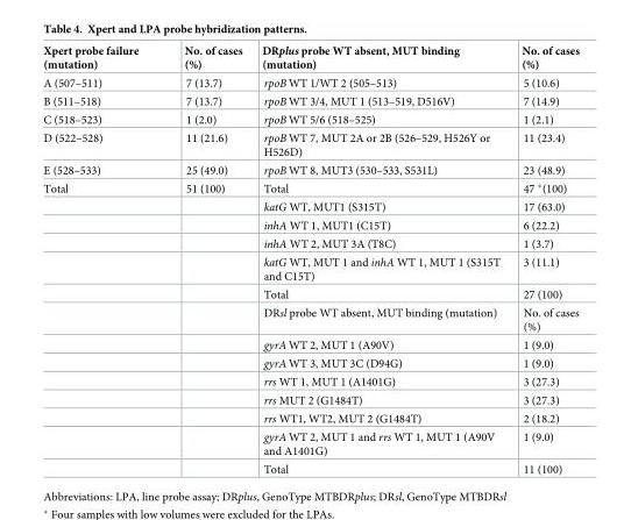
<table><thead><tr><td>Xpert probe failure (mutation)</td><td>No. of cases (%)</td><td>DRplus probe WT absent, MUT binding (mutation)</td><td>No. of cases (%)</td></tr></thead><tbody><tr><td>A (507–511)</td><td>7 (13.7)</td><td>rpoB WT 1/WT 2 (505–513)</td><td>5 (10.6)</td></tr><tr><td>B (511–518)</td><td>7 (13.7)</td><td>rpoB WT 3/4, MUT 1 (513–519, D516V)</td><td>7 (14.9)</td></tr><tr><td>C (518–523)</td><td>1 (2.0)</td><td>rpoB WT 5/6 (518–525)</td><td>1 (2.1)</td></tr><tr><td>D (522–528)</td><td>11 (21.6)</td><td>rpoB WT 7, MUT 2A or 2B (526–529, H526Y or H526D)</td><td>11 (23.4)</td></tr><tr><td>E (528–533)</td><td>25 (49.0)</td><td>rpoB WT 8, MUT3 (530–533, S531L)</td><td>23 (48.9)</td></tr><tr><td rowspan="14">Total</td><td>51 (100)</td><td>Total</td><td>47 *(100)</td></tr><tr><td></td><td>katG WT, MUT1 (S315T)</td><td>17 (63.0)</td></tr><tr><td></td><td>inhA WT 1, MUT1 (C15T)</td><td>6 (22.2)</td></tr><tr><td></td><td>inhA WT 2, MUT 3A (T8C)</td><td>1 (3.7)</td></tr><tr><td></td><td>katG WT, MUT 1 and inhA WT 1, MUT 1 (S315T and C15T)</td><td>3 (11.1)</td></tr><tr><td></td><td>Total</td><td>27 (100)</td></tr><tr><td></td><td>DRsl probe WT absent, MUT binding (mutation)</td><td>No. of cases (%)</td></tr><tr><td></td><td>gyrA WT 2, MUT 1 (A90V)</td><td>1 (9.0)</td></tr><tr><td></td><td>gyrA WT 3, MUT 3C (D94G)</td><td>1 (9.0)</td></tr><tr><td></td><td>rrs WT 1, MUT 1 (A1401G)</td><td>3 (27.3)</td></tr><tr><td></td><td>rrs MUT 2 (G1484T)</td><td>3 (27.3)</td></tr><tr><td></td><td>rrs WT1, WT2, MUT 2 (G1484T)</td><td>2 (18.2)</td></tr><tr><td></td><td>gyrA WT 2, MUT 1 and rrs WT 1, MUT 1 (A90V and A1401G)</td><td>1 (9.0)</td></tr><tr><td></td><td>Total</td><td>11 (100)</td></tr></tbody></table>